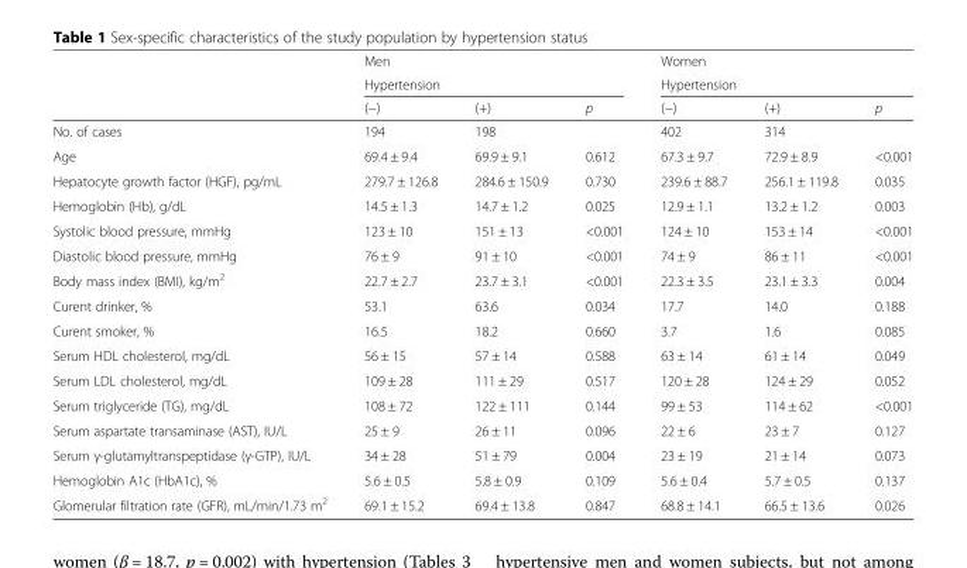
<table><thead><tr><td rowspan="3"></td><td rowspan="2" colspan="3">Men Hypertension</td><td rowspan="2" colspan="3">Women Hypertension</td></tr><tr></tr><tr><td>(−)</td><td>(+)</td><td>p</td><td>(−)</td><td>(+)</td><td>p</td></tr></thead><tbody><tr><td>No. of cases</td><td>194</td><td>198</td><td></td><td>402</td><td>314</td><td></td></tr><tr><td>Age</td><td>69.4 ± 9.4</td><td>69.9 ± 9.1</td><td>0.612</td><td>67.3 ± 9.7</td><td>72.9 ± 8.9</td><td>&lt;0.001</td></tr><tr><td>Hepatocyte growth factor (HGF), pg/mL</td><td>279.7 ± 126.8</td><td>284.6 ± 150.9</td><td>0.730</td><td>239.6 ± 88.7</td><td>256.1 ± 119.8</td><td>0.035</td></tr><tr><td>Hemoglobin (Hb), g/dL</td><td>14.5 ± 1.3</td><td>14.7 ± 1.2</td><td>0.025</td><td>12.9 ± 1.1</td><td>13.2 ± 1.2</td><td>0.003</td></tr><tr><td>Systolic blood pressure, mmHg</td><td>123 ± 10</td><td>151 ± 13</td><td>&lt;0.001</td><td>124 ± 10</td><td>153 ± 14</td><td>&lt;0.001</td></tr><tr><td>Diastolic blood pressure, mmHg</td><td>76 ± 9</td><td>91 ± 10</td><td>&lt;0.001</td><td>74 ± 9</td><td>86 ± 11</td><td>&lt;0.001</td></tr><tr><td>Body mass index (BMI), kg/m<sup>2</sup></td><td>22.7 ± 2.7</td><td>23.7 ± 3.1</td><td>&lt;0.001</td><td>22.3 ± 3.5</td><td>23.1 ± 3.3</td><td>0.004</td></tr><tr><td>Curent drinker, %</td><td>53.1</td><td>63.6</td><td>0.034</td><td>17.7</td><td>14.0</td><td>0.188</td></tr><tr><td>Curent smoker, %</td><td>16.5</td><td>18.2</td><td>0.660</td><td>3.7</td><td>1.6</td><td>0.085</td></tr><tr><td>Serum HDL cholesterol, mg/dL</td><td>56 ± 15</td><td>57 ± 14</td><td>0.588</td><td>63 ± 14</td><td>61 ± 14</td><td>0.049</td></tr><tr><td>Serum LDL cholesterol, mg/dL</td><td>109 ± 28</td><td>111 ± 29</td><td>0.517</td><td>120 ± 28</td><td>124 ± 29</td><td>0.052</td></tr><tr><td>Serum triglyceride (TG), mg/dL</td><td>108 ± 72</td><td>122 ± 111</td><td>0.144</td><td>99 ± 53</td><td>114 ± 62</td><td>&lt;0.001</td></tr><tr><td>Serum aspartate transaminase (AST), IU/L</td><td>25 ± 9</td><td>26 ± 11</td><td>0.096</td><td>22 ± 6</td><td>23 ± 7</td><td>0.127</td></tr><tr><td>Serum γ-glutamyltranspeptidase (γ-GTP), IU/L</td><td>34 ± 28</td><td>51 ± 79</td><td>0.004</td><td>23 ± 19</td><td>21 ± 14</td><td>0.073</td></tr><tr><td>Hemoglobin A1c (HbA1c), %</td><td>5.6 ± 0.5</td><td>5.8 ± 0.9</td><td>0.109</td><td>5.6 ± 0.4</td><td>5.7 ± 0.5</td><td>0.137</td></tr><tr><td>Glomerular filtration rate (GFR), mL/min/1.73 m<sup>2</sup></td><td>69.1 ± 15.2</td><td>69.4 ± 13.8</td><td>0.847</td><td>68.8 ± 14.1</td><td>66.5 ± 13.6</td><td>0.026</td></tr></tbody></table>